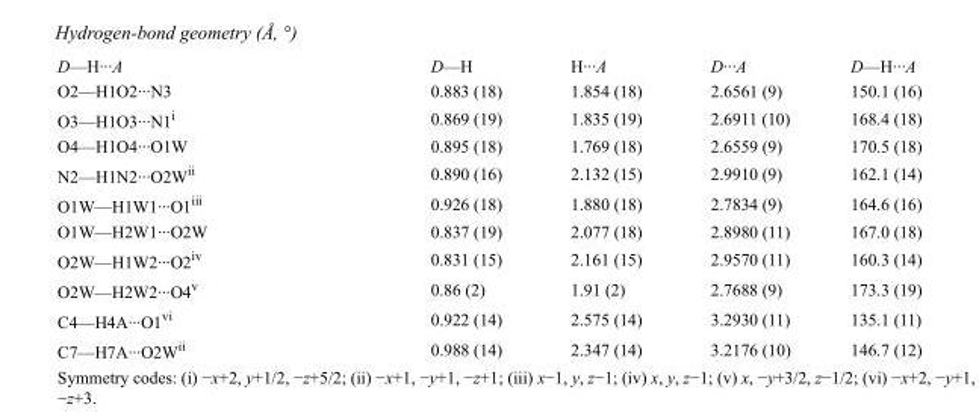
<table><tbody><tr><td>D—H···A</td><td>D—H</td><td>H···A</td><td>D···A</td><td>D—H···A</td></tr><tr><td>O2—H1O2···N3</td><td>0.883 (18)</td><td>1.854 (18)</td><td>2.6561 (9)</td><td>150.1 (16)</td></tr><tr><td>O3—H1O3···N1<sup>i</sup></td><td>0.869 (19)</td><td>1.835 (19)</td><td>2.6911 (10)</td><td>168.4 (18)</td></tr><tr><td>O4—H1O4···O1W</td><td>0.895 (18)</td><td>1.769 (18)</td><td>2.6559 (9)</td><td>170.5 (18)</td></tr><tr><td>N2—H1N2···O2W<sup>ii</sup></td><td>0.890 (16)</td><td>2.132 (15)</td><td>2.9910 (9)</td><td>162.1 (14)</td></tr><tr><td>O1W—H1W1···O1<sup>iii</sup></td><td>0.926 (18)</td><td>1.880 (18)</td><td>2.7834 (9)</td><td>164.6 (16)</td></tr><tr><td>O1W—H2W1···O2W</td><td>0.837 (19)</td><td>2.077 (18)</td><td>2.8980 (11)</td><td>167.0 (18)</td></tr><tr><td>O2W—H1W2···O2<sup>iv</sup></td><td>0.831 (15)</td><td>2.161 (15)</td><td>2.9570 (11)</td><td>160.3 (14)</td></tr><tr><td>O2W—H2W2···O4<sup>v</sup></td><td>0.86 (2)</td><td>1.91 (2)</td><td>2.7688 (9)</td><td>173.3 (19)</td></tr><tr><td>C4—H4A···O1<sup>vi</sup></td><td>0.922 (14)</td><td>2.575 (14)</td><td>3.2930 (11)</td><td>135.1 (11)</td></tr><tr><td>C7—H7A···O2W<sup>ii</sup></td><td>0.988 (14)</td><td>2.347 (14)</td><td>3.2176 (10)</td><td>146.7 (12)</td></tr></tbody></table>